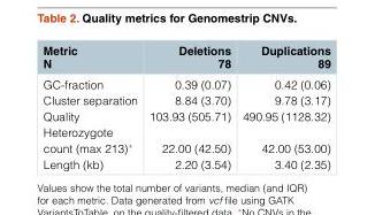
<table><thead><tr><td>Metric N</td><td>Deletions 78</td><td>Duplications 89</td></tr></thead><tbody><tr><td>GC-fraction Cluster separation Quality Heterozygote count (max 213)* Length (kb)</td><td>0.39 (0.07) 8.84 (3.70) 103.93 (505.71) 22.00 (42.50) 2.20 (3.54)</td><td>0.42 (0.06) 9.78 (3.17) 490.95 (1128.32) 42.00 (53.00) 3.40 (2.35)</td></tr></tbody></table>